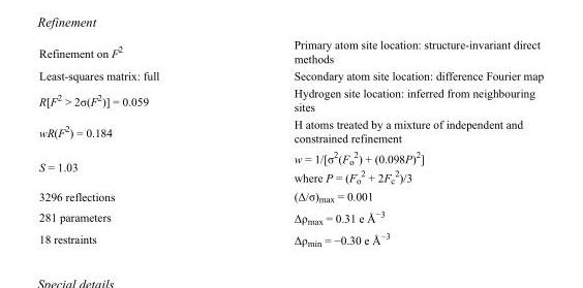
<table><tbody><tr><td>Refinement on F<sup>2</sup></td><td>Primary atom site location: structure-invariant direct methods</td></tr><tr><td>Least-squares matrix: full</td><td>Secondary atom site location: difference Fourier map</td></tr><tr><td>R[F<sup>2</sup> &gt; 2σ(F<sup>2</sup>)] = 0.059</td><td>Hydrogen site location: inferred from neighbouring sites</td></tr><tr><td>wR(F<sup>2</sup>) = 0.184</td><td>H atoms treated by a mixture of independent and constrained refinement</td></tr><tr><td>S = 1.03</td><td>w = 1/[σ<sup>2</sup>(F<sub>o</sub> <sup>2</sup>) + (0.098P)<sup>2</sup>] where P = (F<sub>o</sub> <sup>2</sup> + 2F<sub>c</sub> <sup>2</sup>)/3</td></tr><tr><td>3296 reflections</td><td>(Δ/σ)<sub>max</sub> = 0.001</td></tr><tr><td>281 parameters</td><td>Δρ<sub>max</sub> = 0.31 e Å<sup>−3</sup></td></tr><tr><td>18 restraints</td><td>Δρ<sub>min</sub> = −0.30 e Å<sup>−3</sup></td></tr></tbody></table>